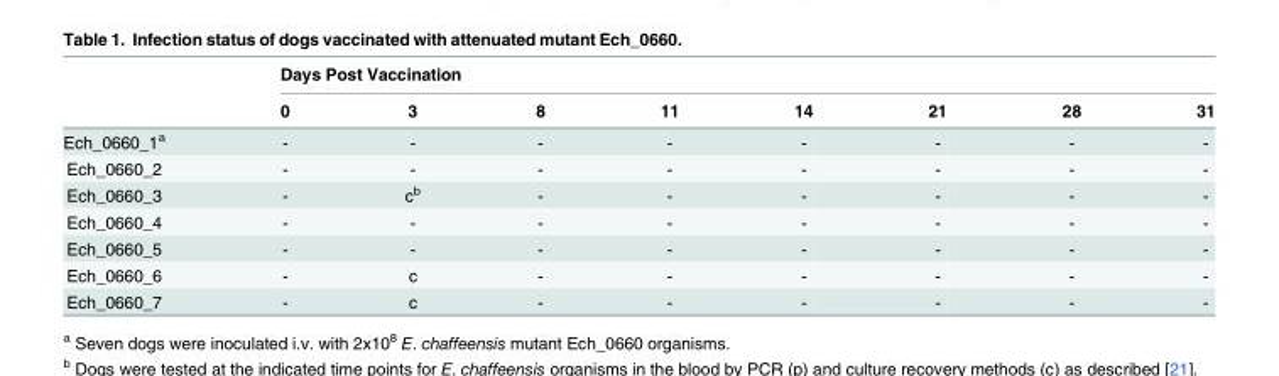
<table><thead><tr><td rowspan="2"></td><td colspan="8">Days Post Vaccination</td></tr><tr><td>0</td><td>3</td><td>8</td><td>11</td><td>14</td><td>21</td><td>28</td><td>31</td></tr></thead><tbody><tr><td>Ech_0660_1<sup>a</sup></td><td>-</td><td>-</td><td>-</td><td>-</td><td>-</td><td>-</td><td>-</td><td>-</td></tr><tr><td>Ech_0660_2</td><td>-</td><td>-</td><td>-</td><td>-</td><td>-</td><td>-</td><td>-</td><td>-</td></tr><tr><td>Ech_0660_3</td><td>-</td><td>c<sup>b</sup></td><td>-</td><td>-</td><td>-</td><td>-</td><td>-</td><td>-</td></tr><tr><td>Ech_0660_4</td><td>-</td><td>-</td><td>-</td><td>-</td><td>-</td><td>-</td><td>-</td><td>-</td></tr><tr><td>Ech_0660_5</td><td>-</td><td>-</td><td>-</td><td>-</td><td>-</td><td>-</td><td>-</td><td>-</td></tr><tr><td>Ech_0660_6</td><td>-</td><td>c</td><td>-</td><td>-</td><td>-</td><td>-</td><td>-</td><td>-</td></tr><tr><td>Ech_0660_7</td><td>-</td><td>c</td><td>-</td><td>-</td><td>-</td><td>-</td><td>-</td><td>-</td></tr></tbody></table>